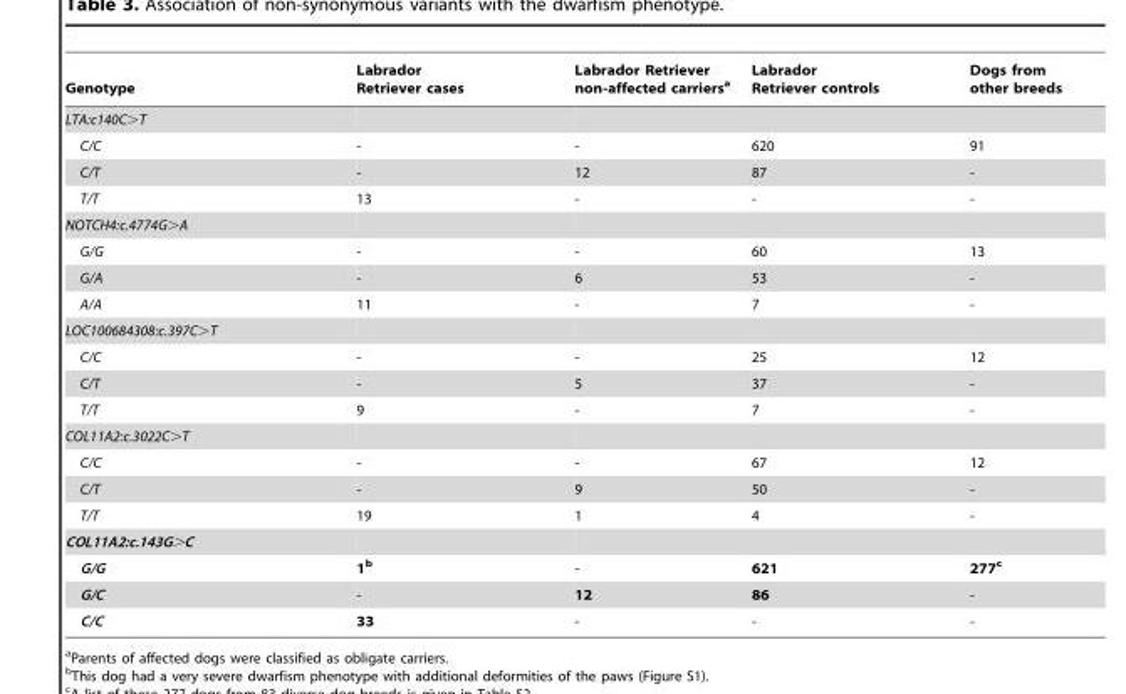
<table><thead><tr><td>Genotype</td><td>Labrador Retriever cases</td><td>Labrador Retriever non-affected carriers<sup>a</sup></td><td>Labrador Retriever controls</td><td>Dogs from other breeds</td></tr></thead><tbody><tr><td colspan="5">LTA:c140C&gt;T</td></tr><tr><td>C/C</td><td>-</td><td>-</td><td>620</td><td>91</td></tr><tr><td>C/T</td><td>-</td><td>12</td><td>87</td><td>-</td></tr><tr><td>T/T</td><td>13</td><td>-</td><td>-</td><td>-</td></tr><tr><td colspan="5">NOTCH4:c.4774G&gt;A</td></tr><tr><td>G/G</td><td>-</td><td>-</td><td>60</td><td>13</td></tr><tr><td>G/A</td><td>-</td><td>6</td><td>53</td><td>-</td></tr><tr><td>A/A</td><td>11</td><td>-</td><td>7</td><td>-</td></tr><tr><td colspan="5">LOC100684308:c.397C&gt;T</td></tr><tr><td>C/C</td><td>-</td><td>-</td><td>25</td><td>12</td></tr><tr><td>C/T</td><td>-</td><td>5</td><td>37</td><td>-</td></tr><tr><td>T/T</td><td>9</td><td>-</td><td>7</td><td>-</td></tr><tr><td colspan="5">COL11A2:c.3022C&gt;T</td></tr><tr><td>C/C</td><td>-</td><td>-</td><td>67</td><td>12</td></tr><tr><td>C/T</td><td>-</td><td>9</td><td>50</td><td>-</td></tr><tr><td>T/T</td><td>19</td><td>1</td><td>4</td><td>-</td></tr><tr><td colspan="5">COL11A2:c.143G&gt;C</td></tr><tr><td>G/G</td><td>1b</td><td>-</td><td>621</td><td>277c</td></tr><tr><td>G/C</td><td>-</td><td>12</td><td>86</td><td>-</td></tr><tr><td>C/C</td><td>33</td><td>-</td><td>-</td><td>-</td></tr></tbody></table>